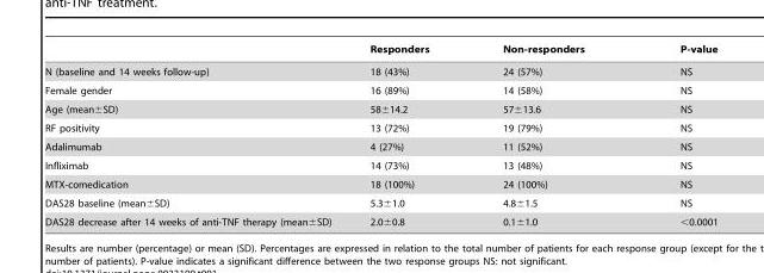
<table><thead><tr><td></td><td>Responders</td><td>Non-responders</td><td>P-value</td></tr></thead><tbody><tr><td>N (baseline and 14 weeks follow-up)</td><td>18 (43%)</td><td>24 (57%)</td><td>NS</td></tr><tr><td>Female gender</td><td>16 (89%)</td><td>14 (58%)</td><td>NS</td></tr><tr><td>Age (mean±SD)</td><td>58±14.2</td><td>57±13.6</td><td>NS</td></tr><tr><td>RF positivity</td><td>13 (72%)</td><td>19 (79%)</td><td>NS</td></tr><tr><td>Adalimumab</td><td>4 (27%)</td><td>11 (52%)</td><td>NS</td></tr><tr><td>Infliximab</td><td>14 (73%)</td><td>13 (48%)</td><td>NS</td></tr><tr><td>MTX-comedication</td><td>18 (100%)</td><td>24 (100%)</td><td>NS</td></tr><tr><td>DAS28 baseline (mean±SD)</td><td>5.3±1.0</td><td>4.8±1.5</td><td>NS</td></tr><tr><td>DAS28 decrease after 14 weeks of anti-TNF therapy (mean±SD)</td><td>2.0±0.8</td><td>0.1±1.0</td><td>&lt;0.0001</td></tr></tbody></table>